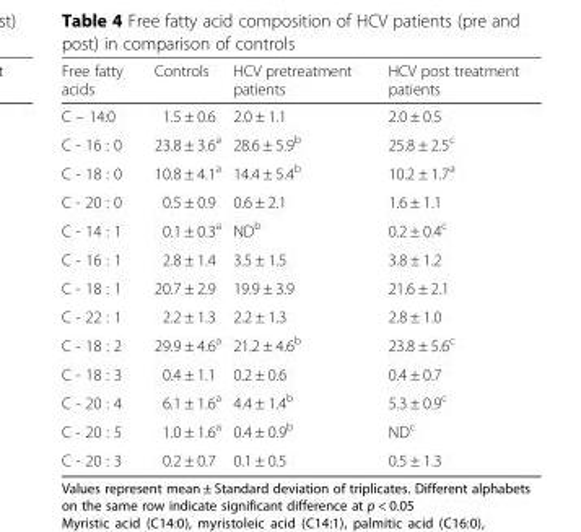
<table><thead><tr><td>Free fatty acids</td><td>Controls</td><td>HCV pretreatment patients</td><td>HCV post treatment patients</td></tr></thead><tbody><tr><td>C – 14:0</td><td>1.5 ± 0.6</td><td>2.0 ± 1.1</td><td>2.0 ± 0.5</td></tr><tr><td>C - 16 : 0</td><td>23.8 ± 3.6<sup>a</sup></td><td>28.6 ± 5.9<sup>b</sup></td><td>25.8 ± 2.5<sup>c</sup></td></tr><tr><td>C - 18 : 0</td><td>10.8 ± 4.1<sup>a</sup></td><td>14.4 ± 5.4<sup>b</sup></td><td>10.2 ± 1.7<sup>a</sup></td></tr><tr><td>C - 20 : 0</td><td>0.5 ± 0.9</td><td>0.6 ± 2.1</td><td>1.6 ± 1.1</td></tr><tr><td>C - 14 : 1</td><td>0.1 ± 0.3<sup>a</sup></td><td>ND<sup>b</sup></td><td>0.2 ± 0.4<sup>c</sup></td></tr><tr><td>C - 16 : 1</td><td>2.8 ± 1.4</td><td>3.5 ± 1.5</td><td>3.8 ± 1.2</td></tr><tr><td>C - 18 : 1</td><td>20.7 ± 2.9</td><td>19.9 ± 3.9</td><td>21.6 ± 2.1</td></tr><tr><td>C - 22 : 1</td><td>2.2 ± 1.3</td><td>2.2 ± 1.3</td><td>2.8 ± 1.0</td></tr><tr><td>C - 18 : 2</td><td>29.9 ± 4.6<sup>a</sup></td><td>21.2 ± 4.6<sup>b</sup></td><td>23.8 ± 5.6<sup>c</sup></td></tr><tr><td>C - 18 : 3</td><td>0.4 ± 1.1</td><td>0.2 ± 0.6</td><td>0.4 ± 0.7</td></tr><tr><td>C - 20 : 4</td><td>6.1 ± 1.6<sup>a</sup></td><td>4.4 ± 1.4<sup>b</sup></td><td>5.3 ± 0.9<sup>c</sup></td></tr><tr><td>C - 20 : 5</td><td>1.0 ± 1.6<sup>a</sup></td><td>0.4 ± 0.9<sup>b</sup></td><td>ND<sup>c</sup></td></tr><tr><td>C - 20 : 3</td><td>0.2 ± 0.7</td><td>0.1 ± 0.5</td><td>0.5 ± 1.3</td></tr></tbody></table>